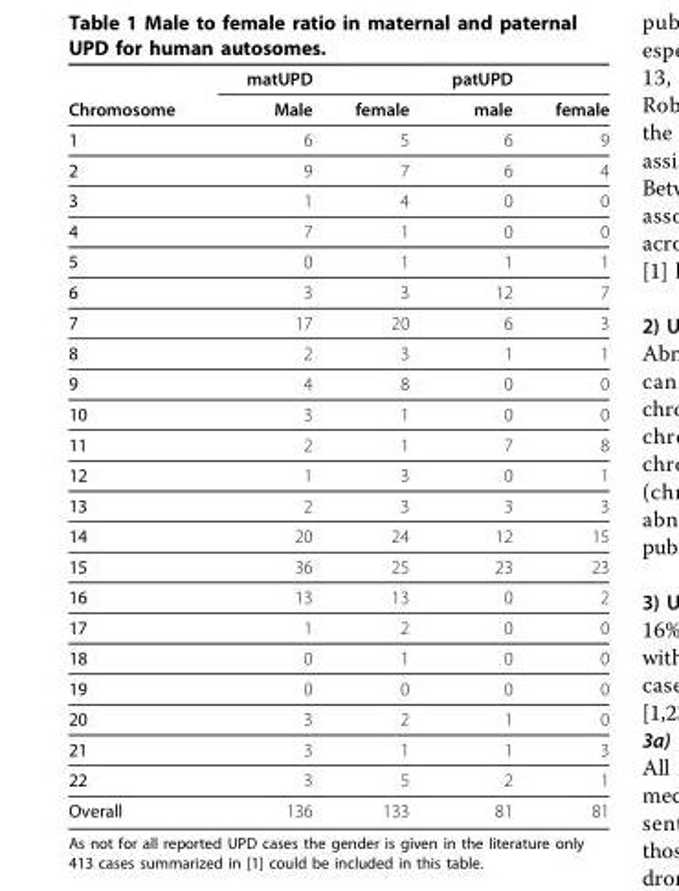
<table><thead><tr><td rowspan="2">Chromosome</td><td rowspan="2">matUPD Male</td><td rowspan="2">female</td><td rowspan="2">patUPD male</td><td rowspan="2">female</td></tr><tr></tr></thead><tbody><tr><td>1</td><td>6</td><td>5</td><td>6</td><td>9</td></tr><tr><td>2</td><td>9</td><td>7</td><td>6</td><td>4</td></tr><tr><td>3</td><td>1</td><td>4</td><td>0</td><td>0</td></tr><tr><td>4</td><td>7</td><td>1</td><td>0</td><td>0</td></tr><tr><td>5</td><td>0</td><td>1</td><td>1</td><td>1</td></tr><tr><td>6</td><td>3</td><td>3</td><td>12</td><td>7</td></tr><tr><td>7</td><td>17</td><td>20</td><td>6</td><td>3</td></tr><tr><td>8</td><td>2</td><td>3</td><td>1</td><td>1</td></tr><tr><td>9</td><td>4</td><td>8</td><td>0</td><td>0</td></tr><tr><td>10</td><td>3</td><td>1</td><td>0</td><td>0</td></tr><tr><td>11</td><td>2</td><td>1</td><td>7</td><td>8</td></tr><tr><td>12</td><td>1</td><td>3</td><td>0</td><td>1</td></tr><tr><td>13</td><td>2</td><td>3</td><td>3</td><td>3</td></tr><tr><td>14</td><td>20</td><td>24</td><td>12</td><td>15</td></tr><tr><td>15</td><td>36</td><td>25</td><td>23</td><td>23</td></tr><tr><td>16</td><td>13</td><td>13</td><td>0</td><td>2</td></tr><tr><td>17</td><td>1</td><td>2</td><td>0</td><td>0</td></tr><tr><td>18</td><td>0</td><td>1</td><td>0</td><td>0</td></tr><tr><td>19</td><td>0</td><td>0</td><td>0</td><td>0</td></tr><tr><td>20</td><td>3</td><td>2</td><td>1</td><td>0</td></tr><tr><td>21</td><td>3</td><td>1</td><td>1</td><td>3</td></tr><tr><td>22</td><td>3</td><td>5</td><td>2</td><td>1</td></tr><tr><td>Overall</td><td>136</td><td>133</td><td>81</td><td>81</td></tr></tbody></table>